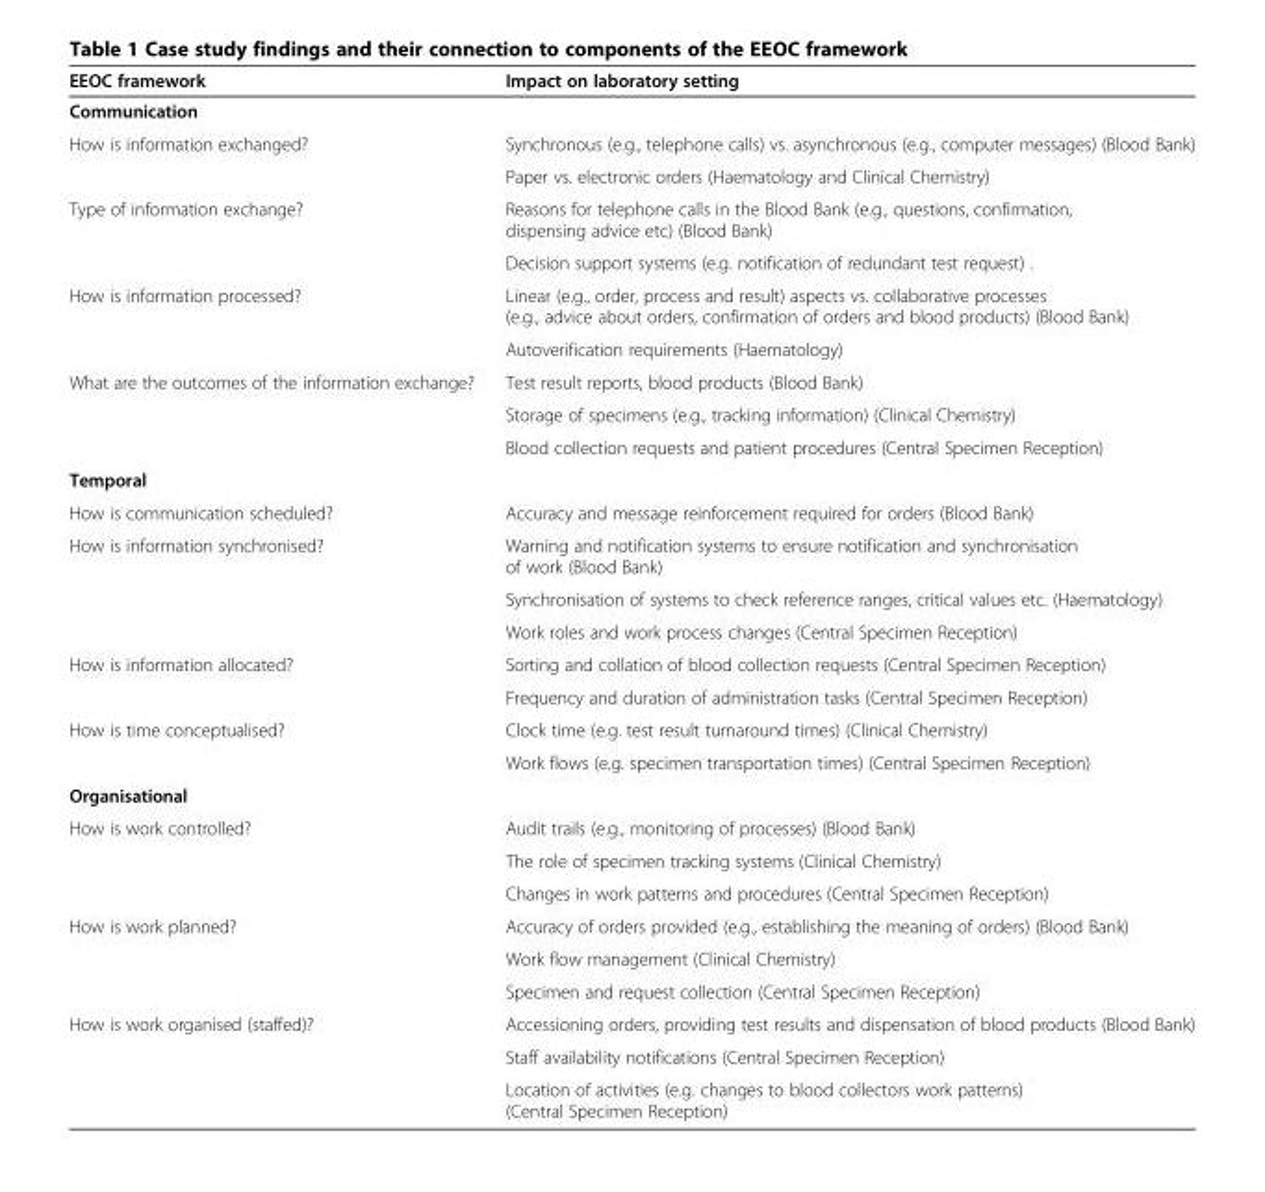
<table><thead><tr><td>EEOC framework</td><td>Impact on laboratory setting</td></tr></thead><tbody><tr><td colspan="2">Communication</td></tr><tr><td rowspan="2">How is information exchanged?</td><td>Synchronous (e.g., telephone calls) vs. asynchronous (e.g., computer messages) (Blood Bank)</td></tr><tr><td>Paper vs. electronic orders (Haematology and Clinical Chemistry)</td></tr><tr><td rowspan="2">Type of information exchange?</td><td>Reasons for telephone calls in the Blood Bank (e.g., questions, confirmation, dispensing advice etc) (Blood Bank)</td></tr><tr><td>Decision support systems (e.g. notification of redundant test request) .</td></tr><tr><td rowspan="2">How is information processed?</td><td>Linear (e.g., order, process and result) aspects vs. collaborative processes (e.g., advice about orders, confirmation of orders and blood products) (Blood Bank)</td></tr><tr><td>Autoverification requirements (Haematology)</td></tr><tr><td rowspan="3">What are the outcomes of the information exchange?</td><td>Test result reports, blood products (Blood Bank)</td></tr><tr><td>Storage of specimens (e.g., tracking information) (Clinical Chemistry)</td></tr><tr><td>Blood collection requests and patient procedures (Central Specimen Reception)</td></tr><tr><td colspan="2">Temporal</td></tr><tr><td>How is communication scheduled?</td><td>Accuracy and message reinforcement required for orders (Blood Bank)</td></tr><tr><td rowspan="3">How is information synchronised?</td><td>Warning and notification systems to ensure notification and synchronisation of work (Blood Bank)</td></tr><tr><td>Synchronisation of systems to check reference ranges, critical values etc. (Haematology)</td></tr><tr><td>Work roles and work process changes (Central Specimen Reception)</td></tr><tr><td rowspan="2">How is information allocated?</td><td>Sorting and collation of blood collection requests (Central Specimen Reception)</td></tr><tr><td>Frequency and duration of administration tasks (Central Specimen Reception)</td></tr><tr><td rowspan="2">How is time conceptualised?</td><td>Clock time (e.g. test result turnaround times) (Clinical Chemistry)</td></tr><tr><td>Work flows (e.g. specimen transportation times) (Central Specimen Reception)</td></tr><tr><td colspan="2">Organisational</td></tr><tr><td rowspan="3">How is work controlled?</td><td>Audit trails (e.g., monitoring of processes) (Blood Bank)</td></tr><tr><td>The role of specimen tracking systems (Clinical Chemistry)</td></tr><tr><td>Changes in work patterns and procedures (Central Specimen Reception)</td></tr><tr><td rowspan="3">How is work planned?</td><td>Accuracy of orders provided (e.g., establishing the meaning of orders) (Blood Bank)</td></tr><tr><td>Work flow management (Clinical Chemistry)</td></tr><tr><td>Specimen and request collection (Central Specimen Reception)</td></tr><tr><td rowspan="3">How is work organised (staffed)?</td><td>Accessioning orders, providing test results and dispensation of blood products (Blood Bank)</td></tr><tr><td>Staff availability notifications (Central Specimen Reception)</td></tr><tr><td>Location of activities (e.g. changes to blood collectors work patterns) (Central Specimen Reception)</td></tr></tbody></table>